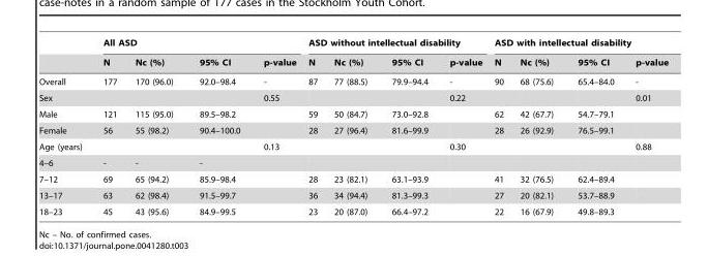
<table><thead><tr><td rowspan="2"></td><td colspan="4">All ASD</td><td colspan="4">ASD without intellectual disability</td><td colspan="4">ASD with intellectual disability</td></tr><tr><td>N</td><td>Nc (%)</td><td>95% CI</td><td>p-value</td><td>N</td><td>Nc (%)</td><td>95% CI</td><td>p-value</td><td>N</td><td>Nc (%)</td><td>95% CI</td><td>p-value</td></tr></thead><tbody><tr><td>Overall</td><td>177</td><td>170 (96.0)</td><td>92.0–98.4</td><td>-</td><td>87</td><td>77 (88.5)</td><td>79.9–94.4</td><td>-</td><td>90</td><td>68 (75.6)</td><td>65.4–84.0</td><td>-</td></tr><tr><td>Sex</td><td></td><td></td><td></td><td>0.55</td><td></td><td></td><td></td><td>0.22</td><td></td><td></td><td></td><td>0.01</td></tr><tr><td>Male</td><td>121</td><td>115 (95.0)</td><td>89.5–98.2</td><td></td><td>59</td><td>50 (84.7)</td><td>73.0–92.8</td><td></td><td>62</td><td>42 (67.7)</td><td>54.7–79.1</td><td></td></tr><tr><td>Female</td><td>56</td><td>55 (98.2)</td><td>90.4–100.0</td><td></td><td>28</td><td>27 (96.4)</td><td>81.6–99.9</td><td></td><td>28</td><td>26 (92.9)</td><td>76.5–99.1</td><td></td></tr><tr><td>Age (years)</td><td></td><td></td><td></td><td>0.13</td><td></td><td></td><td></td><td>0.30</td><td></td><td></td><td></td><td>0.88</td></tr><tr><td>4–6</td><td>-</td><td>-</td><td>-</td><td></td><td></td><td></td><td></td><td></td><td></td><td></td><td></td><td></td></tr><tr><td>7–12</td><td>69</td><td>65 (94.2)</td><td>85.9–98.4</td><td></td><td>28</td><td>23 (82.1)</td><td>63.1–93.9</td><td></td><td>41</td><td>32 (76.5)</td><td>62.4–89.4</td><td></td></tr><tr><td>13–17</td><td>63</td><td>62 (98.4)</td><td>91.5–99.7</td><td></td><td>36</td><td>34 (94.4)</td><td>81.3–99.3</td><td></td><td>27</td><td>20 (82.1)</td><td>53.7–88.9</td><td></td></tr><tr><td>18–23</td><td>45</td><td>43 (95.6)</td><td>84.9–99.5</td><td></td><td>23</td><td>20 (87.0)</td><td>66.4–97.2</td><td></td><td>22</td><td>16 (67.9)</td><td>49.8–89.3</td><td></td></tr></tbody></table>